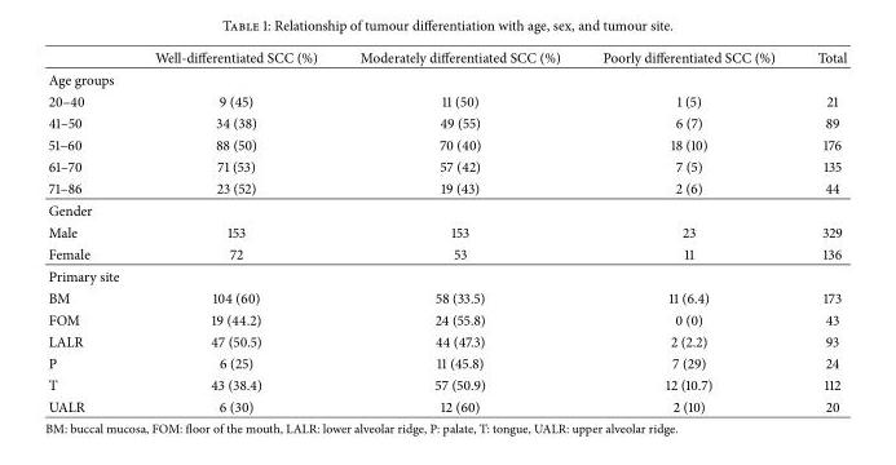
<table><thead><tr><td></td><td>Well-differentiated SCC (%)</td><td>Moderately differentiated SCC (%)</td><td>Poorly differentiated SCC (%)</td><td>Total</td></tr></thead><tbody><tr><td colspan="5">Age groups</td></tr><tr><td>20–40</td><td>9 (45)</td><td>11 (50)</td><td>1 (5)</td><td>21</td></tr><tr><td>41–50</td><td>34 (38)</td><td>49 (55)</td><td>6 (7)</td><td>89</td></tr><tr><td>51–60</td><td>88 (50)</td><td>70 (40)</td><td>18 (10)</td><td>176</td></tr><tr><td>61–70</td><td>71 (53)</td><td>57 (42)</td><td>7 (5)</td><td>135</td></tr><tr><td>71–86</td><td>23 (52)</td><td>19 (43)</td><td>2 (6)</td><td>44</td></tr><tr><td colspan="5">Gender</td></tr><tr><td>Male</td><td>153</td><td>153</td><td>23</td><td>329</td></tr><tr><td>Female</td><td>72</td><td>53</td><td>11</td><td>136</td></tr><tr><td colspan="5">Primary site</td></tr><tr><td>BM</td><td>104 (60)</td><td>58 (33.5)</td><td>11 (6.4)</td><td>173</td></tr><tr><td>FOM</td><td>19 (44.2)</td><td>24 (55.8)</td><td>0 (0)</td><td>43</td></tr><tr><td>LALR</td><td>47 (50.5)</td><td>44 (47.3)</td><td>2 (2.2)</td><td>93</td></tr><tr><td>P</td><td>6 (25)</td><td>11 (45.8)</td><td>7 (29)</td><td>24</td></tr><tr><td>T</td><td>43 (38.4)</td><td>57 (50.9)</td><td>12 (10.7)</td><td>112</td></tr><tr><td>UALR</td><td>6 (30)</td><td>12 (60)</td><td>2 (10)</td><td>20</td></tr></tbody></table>